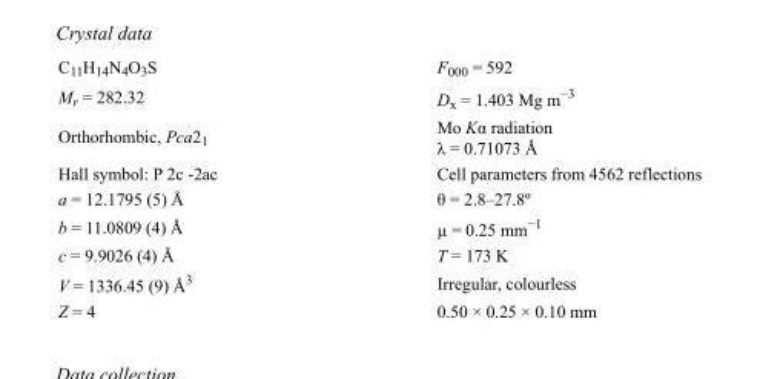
<table><tbody><tr><td>C<sub>11</sub>H<sub>14</sub>N<sub>4</sub>O<sub>3</sub>S</td><td>F000 = 592</td></tr><tr><td>M<sub>r</sub> = 282.32</td><td>D<sub>x</sub> = 1.403 Mg m<sup>−3</sup></td></tr><tr><td>Orthorhombic, Pca2<sub>1</sub></td><td>Mo Kα radiation λ = 0.71073 Å</td></tr><tr><td>Hall symbol: P 2c -2ac</td><td>Cell parameters from 4562 reflections</td></tr><tr><td>a = 12.1795 (5) Å</td><td>θ = 2.8–27.8º</td></tr><tr><td>b = 11.0809 (4) Å</td><td>µ = 0.25 mm<sup>−1</sup></td></tr><tr><td>c = 9.9026 (4) Å</td><td>T = 173 K</td></tr><tr><td>V = 1336.45 (9) Å<sup>3</sup></td><td>Irregular, colourless</td></tr><tr><td>Z = 4</td><td>0.50 × 0.25 × 0.10 mm</td></tr></tbody></table>